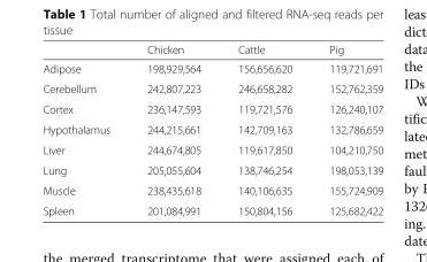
<table><thead><tr><td></td><td>Chicken</td><td>Cattle</td><td>Pig</td></tr></thead><tbody><tr><td>Adipose</td><td>198,929,564</td><td>156,656,620</td><td>119,721,691</td></tr><tr><td>Cerebellum</td><td>242,807,223</td><td>246,658,282</td><td>152,762,359</td></tr><tr><td>Cortex</td><td>236,147,593</td><td>119,721,576</td><td>126,240,107</td></tr><tr><td>Hypothalamus</td><td>244,215,661</td><td>142,709,163</td><td>132,786,659</td></tr><tr><td>Liver</td><td>244,674,805</td><td>119,617,850</td><td>104,210,750</td></tr><tr><td>Lung</td><td>205,055,604</td><td>138,746,254</td><td>198,053,139</td></tr><tr><td>Muscle</td><td>238,435,618</td><td>140,106,635</td><td>155,724,909</td></tr><tr><td>Spleen</td><td>201,084,991</td><td>150,804,156</td><td>125,682,422</td></tr></tbody></table>